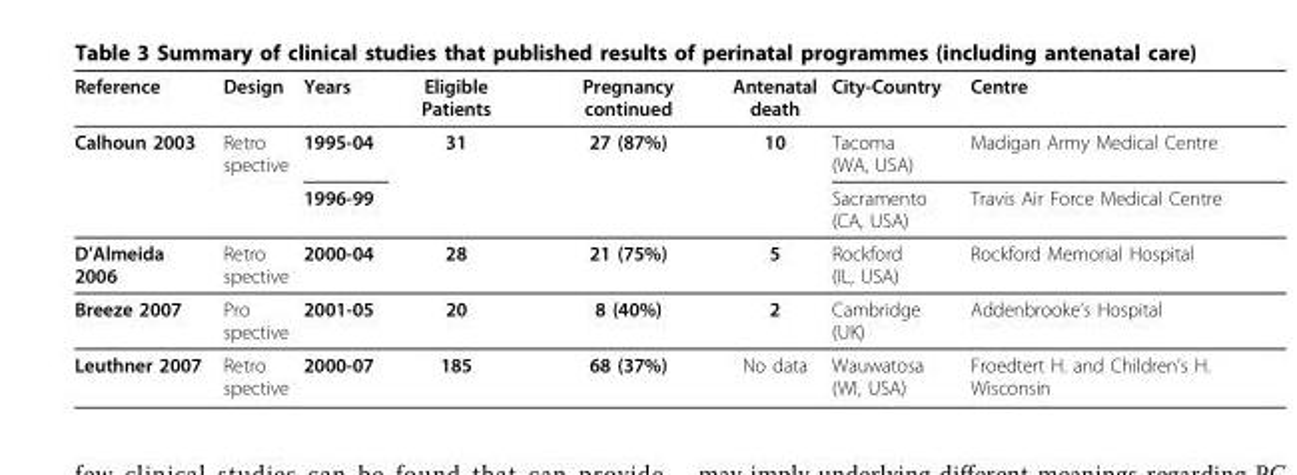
<table><thead><tr><td>Reference</td><td>Design</td><td>Years</td><td>Eligible Patients</td><td>Pregnancy continued</td><td>Antenatal death</td><td>City-Country</td><td>Centre</td></tr></thead><tbody><tr><td rowspan="2">Calhoun 2003</td><td>Retro spective</td><td>1995-04</td><td>31</td><td>27 (87%)</td><td>10</td><td>Tacoma (WA, USA)</td><td>Madigan Army Medical Centre</td></tr><tr><td></td><td>1996-99</td><td></td><td></td><td></td><td>Sacramento (CA, USA)</td><td>Travis Air Force Medical Centre</td></tr><tr><td>D’Almeida 2006</td><td>Retro spective</td><td>2000-04</td><td>28</td><td>21 (75%)</td><td>5</td><td>Rockford (IL, USA)</td><td>Rockford Memorial Hospital</td></tr><tr><td>Breeze 2007</td><td>Pro spective</td><td>2001-05</td><td>20</td><td>8 (40%)</td><td>2</td><td>Cambridge (UK)</td><td>Addenbrooke’s Hospital</td></tr><tr><td>Leuthner 2007</td><td>Retro spective</td><td>2000-07</td><td>185</td><td>68 (37%)</td><td>No data</td><td>Wauwatosa (WI, USA)</td><td>Froedtert H. and Children’s H. Wisconsin</td></tr></tbody></table>